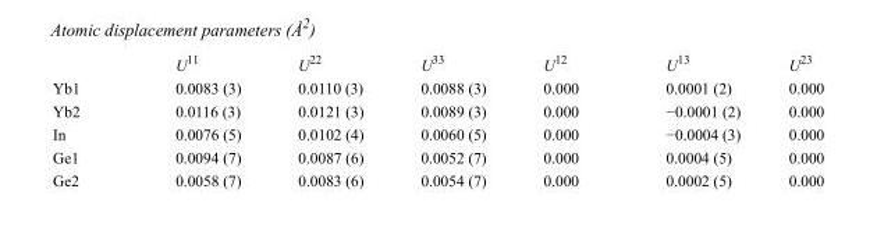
<table><thead><tr><td></td><td>U<sup>11</sup></td><td>U<sup>22</sup></td><td>U<sup>33</sup></td><td>U<sup>12</sup></td><td>U<sup>13</sup></td><td>U<sup>23</sup></td></tr></thead><tbody><tr><td>Yb1</td><td>0.0083 (3)</td><td>0.0110 (3)</td><td>0.0088 (3)</td><td>0.000</td><td>0.0001 (2)</td><td>0.000</td></tr><tr><td>Yb2</td><td>0.0116 (3)</td><td>0.0121 (3)</td><td>0.0089 (3)</td><td>0.000</td><td>−0.0001 (2)</td><td>0.000</td></tr><tr><td>In</td><td>0.0076 (5)</td><td>0.0102 (4)</td><td>0.0060 (5)</td><td>0.000</td><td>−0.0004 (3)</td><td>0.000</td></tr><tr><td>Ge1</td><td>0.0094 (7)</td><td>0.0087 (6)</td><td>0.0052 (7)</td><td>0.000</td><td>0.0004 (5)</td><td>0.000</td></tr><tr><td>Ge2</td><td>0.0058 (7)</td><td>0.0083 (6)</td><td>0.0054 (7)</td><td>0.000</td><td>0.0002 (5)</td><td>0.000</td></tr></tbody></table>